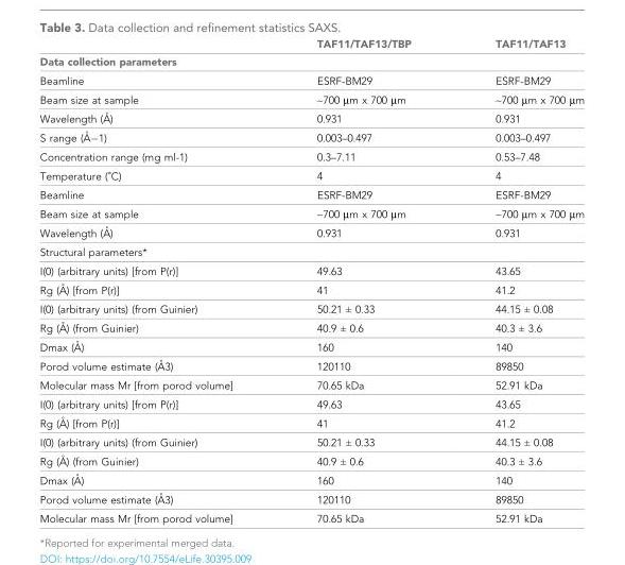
<table><thead><tr><td rowspan="2">Data collection parameters</td><td rowspan="2">TAF11/TAF13/TBP</td><td rowspan="2">TAF11/TAF13</td></tr><tr></tr></thead><tbody><tr><td>Beamline</td><td>ESRF-BM29</td><td>ESRF-BM29</td></tr><tr><td>Beam size at sample</td><td>~700 µm x 700 µm</td><td>~700 µm x 700 µm</td></tr><tr><td>Wavelength (A˚ )</td><td>0.931</td><td>0.931</td></tr><tr><td>S range (A˚ �1)</td><td>0.003–0.497</td><td>0.003–0.497</td></tr><tr><td>Concentration range (mg ml-1)</td><td>0.3–7.11</td><td>0.53–7.48</td></tr><tr><td>Temperature (˚C)</td><td>4</td><td>4</td></tr><tr><td>Beamline</td><td>ESRF-BM29</td><td>ESRF-BM29</td></tr><tr><td>Beam size at sample</td><td>~700 µm x 700 µm</td><td>~700 µm x 700 µm</td></tr><tr><td>Wavelength (A˚ )</td><td>0.931</td><td>0.931</td></tr><tr><td colspan="3">Structural parameters*</td></tr><tr><td>I(0) (arbitrary units) [from P(r)]</td><td>49.63</td><td>43.65</td></tr><tr><td>Rg (A˚ ) [from P(r)]</td><td>41</td><td>41.2</td></tr><tr><td>I(0) (arbitrary units) (from Guinier)</td><td>50.21 ± 0.33</td><td>44.15 ± 0.08</td></tr><tr><td>Rg (A˚ ) (from Guinier)</td><td>40.9 ± 0.6</td><td>40.3 ± 3.6</td></tr><tr><td>Dmax (A˚ )</td><td>160</td><td>140</td></tr><tr><td>Porod volume estimate (A˚ 3)</td><td>120110</td><td>89850</td></tr><tr><td>Molecular mass Mr [from porod volume]</td><td>70.65 kDa</td><td>52.91 kDa</td></tr><tr><td>I(0) (arbitrary units) [from P(r)]</td><td>49.63</td><td>43.65</td></tr><tr><td>Rg (A˚ ) [from P(r)]</td><td>41</td><td>41.2</td></tr><tr><td>I(0) (arbitrary units) (from Guinier)</td><td>50.21 ± 0.33</td><td>44.15 ± 0.08</td></tr><tr><td>Rg (A˚ ) (from Guinier)</td><td>40.9 ± 0.6</td><td>40.3 ± 3.6</td></tr><tr><td>Dmax (A˚ )</td><td>160</td><td>140</td></tr><tr><td>Porod volume estimate (A˚ 3)</td><td>120110</td><td>89850</td></tr><tr><td>Molecular mass Mr [from porod volume]</td><td>70.65 kDa</td><td>52.91 kDa</td></tr></tbody></table>